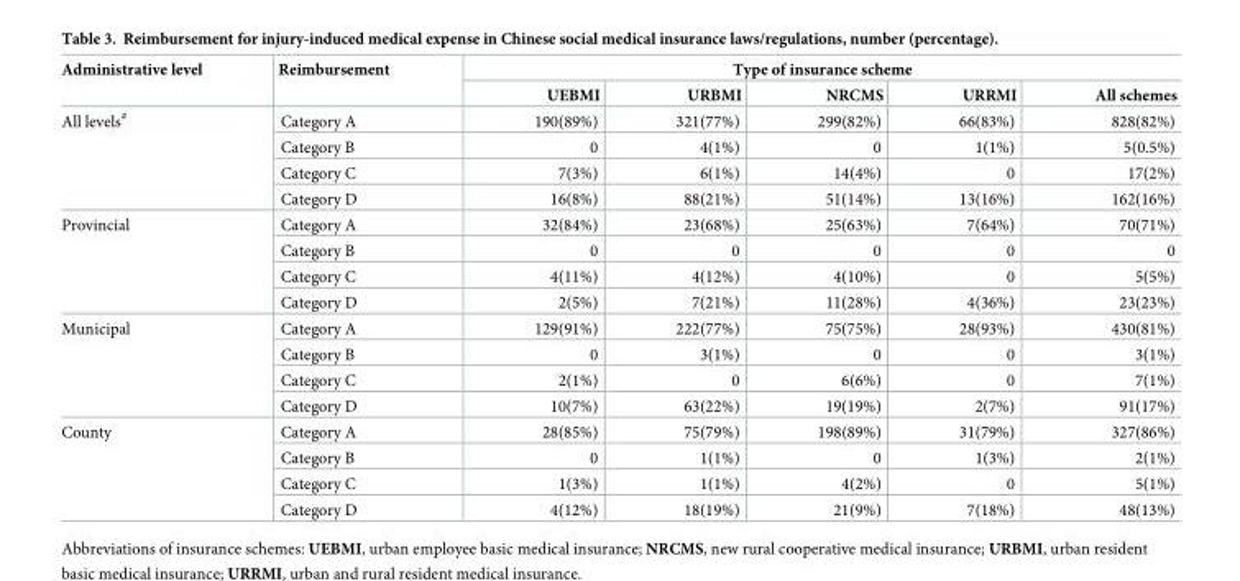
<table><thead><tr><td rowspan="2">Administrative level</td><td rowspan="2">Reimbursement</td><td colspan="5">Type of insurance scheme</td></tr><tr><td>UEBMI</td><td>URBMI</td><td>NRCMS</td><td>URRMI</td><td>All schemes</td></tr></thead><tbody><tr><td rowspan="4">All levels<sup>#</sup></td><td>Category A</td><td>190(89%)</td><td>321(77%)</td><td>299(82%)</td><td>66(83%)</td><td>828(82%)</td></tr><tr><td>Category B</td><td>0</td><td>4(1%)</td><td>0</td><td>1(1%)</td><td>5(0.5%)</td></tr><tr><td>Category C</td><td>7(3%)</td><td>6(1%)</td><td>14(4%)</td><td>0</td><td>17(2%)</td></tr><tr><td>Category D</td><td>16(8%)</td><td>88(21%)</td><td>51(14%)</td><td>13(16%)</td><td>162(16%)</td></tr><tr><td rowspan="4">Provincial</td><td>Category A</td><td>32(84%)</td><td>23(68%)</td><td>25(63%)</td><td>7(64%)</td><td>70(71%)</td></tr><tr><td>Category B</td><td>0</td><td>0</td><td>0</td><td>0</td><td>0</td></tr><tr><td>Category C</td><td>4(11%)</td><td>4(12%)</td><td>4(10%)</td><td>0</td><td>5(5%)</td></tr><tr><td>Category D</td><td>2(5%)</td><td>7(21%)</td><td>11(28%)</td><td>4(36%)</td><td>23(23%)</td></tr><tr><td rowspan="4">Municipal</td><td>Category A</td><td>129(91%)</td><td>222(77%)</td><td>75(75%)</td><td>28(93%)</td><td>430(81%)</td></tr><tr><td>Category B</td><td>0</td><td>3(1%)</td><td>0</td><td>0</td><td>3(1%)</td></tr><tr><td>Category C</td><td>2(1%)</td><td>0</td><td>6(6%)</td><td>0</td><td>7(1%)</td></tr><tr><td>Category D</td><td>10(7%)</td><td>63(22%)</td><td>19(19%)</td><td>2(7%)</td><td>91(17%)</td></tr><tr><td rowspan="4">County</td><td>Category A</td><td>28(85%)</td><td>75(79%)</td><td>198(89%)</td><td>31(79%)</td><td>327(86%)</td></tr><tr><td>Category B</td><td>0</td><td>1(1%)</td><td>0</td><td>1(3%)</td><td>2(1%)</td></tr><tr><td>Category C</td><td>1(3%)</td><td>1(1%)</td><td>4(2%)</td><td>0</td><td>5(1%)</td></tr><tr><td>Category D</td><td>4(12%)</td><td>18(19%)</td><td>21(9%)</td><td>7(18%)</td><td>48(13%)</td></tr></tbody></table>